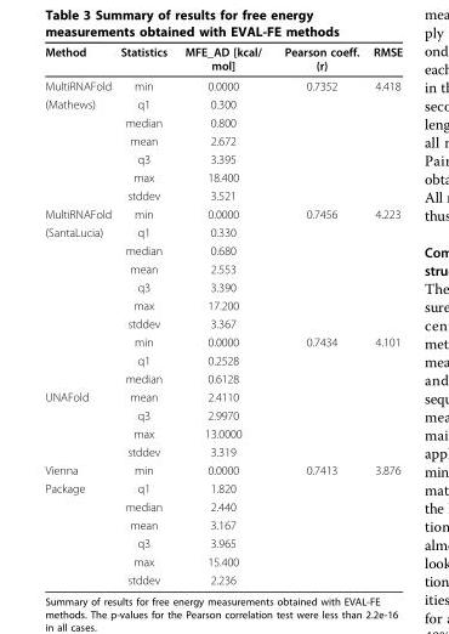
<table><thead><tr><td>Method</td><td>Statistics</td><td>MFE_AD [kcal/ mol]</td><td>Pearson coeff. (r)</td><td>RMSE</td></tr></thead><tbody><tr><td>MultiRNAFold</td><td>min</td><td>0.0000</td><td>0.7352</td><td>4.418</td></tr><tr><td rowspan="6">(Mathews)</td><td>q1</td><td>0.300</td><td></td><td></td></tr><tr><td>median</td><td>0.800</td><td></td><td></td></tr><tr><td>mean</td><td>2.672</td><td></td><td></td></tr><tr><td>q3</td><td>3.395</td><td></td><td></td></tr><tr><td>max</td><td>18.400</td><td></td><td></td></tr><tr><td>stddev</td><td>3.521</td><td></td><td></td></tr><tr><td>MultiRNAFold</td><td>min</td><td>0.0000</td><td>0.7456</td><td>4.223</td></tr><tr><td rowspan="9">(SantaLucia)</td><td>q1</td><td>0.330</td><td></td><td></td></tr><tr><td>median</td><td>0.680</td><td></td><td></td></tr><tr><td>mean</td><td>2.553</td><td></td><td></td></tr><tr><td>q3</td><td>3.390</td><td></td><td></td></tr><tr><td>max</td><td>17.200</td><td></td><td></td></tr><tr><td>stddev</td><td>3.367</td><td></td><td></td></tr><tr><td>min</td><td>0.0000</td><td>0.7434</td><td>4.101</td></tr><tr><td>q1</td><td>0.2528</td><td></td><td></td></tr><tr><td>median</td><td>0.6128</td><td></td><td></td></tr><tr><td rowspan="4">UNAFold</td><td>mean</td><td>2.4110</td><td></td><td></td></tr><tr><td>q3</td><td>2.9970</td><td></td><td></td></tr><tr><td>max</td><td>13.0000</td><td></td><td></td></tr><tr><td>stddev</td><td>3.319</td><td></td><td></td></tr><tr><td>Vienna</td><td>min</td><td>0.0000</td><td>0.7413</td><td>3.876</td></tr><tr><td rowspan="6">Package</td><td>q1</td><td>1.820</td><td></td><td></td></tr><tr><td>median</td><td>2.440</td><td></td><td></td></tr><tr><td>mean</td><td>3.167</td><td></td><td></td></tr><tr><td>q3</td><td>3.965</td><td></td><td></td></tr><tr><td>max</td><td>15.400</td><td></td><td></td></tr><tr><td>stddev</td><td>2.236</td><td></td><td></td></tr></tbody></table>